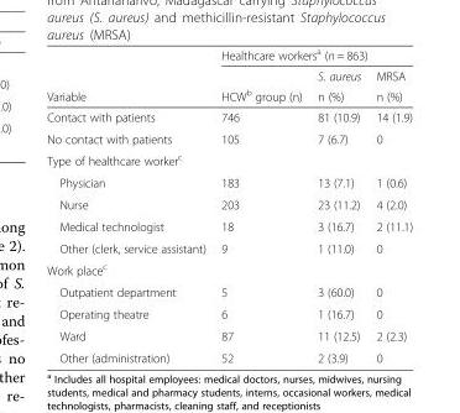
<table><thead><tr><td rowspan="3">Variable</td><td colspan="3">Healthcare workers<sup>a</sup> (n = 863)</td></tr><tr><td rowspan="2">HCW<sup>b</sup> group (n)</td><td rowspan="2">S. aureus n (%)</td><td rowspan="2">MRSA n (%)</td></tr><tr></tr></thead><tbody><tr><td>Contact with patients</td><td>746</td><td>81 (10.9)</td><td>14 (1.9)</td></tr><tr><td>No contact with patients</td><td>105</td><td>7 (6.7)</td><td>0</td></tr><tr><td colspan="4">Type of healthcare worker<sup>c</sup></td></tr><tr><td>Physician</td><td>183</td><td>13 (7.1)</td><td>1 (0.6)</td></tr><tr><td>Nurse</td><td>203</td><td>23 (11.2)</td><td>4 (2.0)</td></tr><tr><td>Medical technologist</td><td>18</td><td>3 (16.7)</td><td>2 (11.1)</td></tr><tr><td>Other (clerk, service assistant)</td><td>9</td><td>1 (11.0)</td><td>0</td></tr><tr><td colspan="4">Work place<sup>c</sup></td></tr><tr><td>Outpatient department</td><td>5</td><td>3 (60.0)</td><td>0</td></tr><tr><td>Operating theatre</td><td>6</td><td>1 (16.7)</td><td>0</td></tr><tr><td>Ward</td><td>87</td><td>11 (12.5)</td><td>2 (2.3)</td></tr><tr><td>Other (administration)</td><td>52</td><td>2 (3.9)</td><td>0</td></tr></tbody></table>